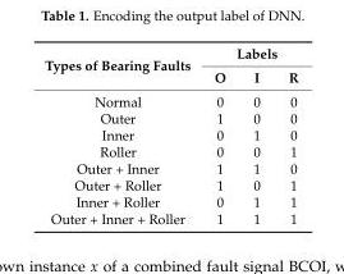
<table><thead><tr><td rowspan="2">Types of Bearing Faults</td><td colspan="3">Labels</td></tr><tr><td>O</td><td>I</td><td>R</td></tr></thead><tbody><tr><td>Normal</td><td>0</td><td>0</td><td>0</td></tr><tr><td>Outer</td><td>1</td><td>0</td><td>0</td></tr><tr><td>Inner</td><td>0</td><td>1</td><td>0</td></tr><tr><td>Roller</td><td>0</td><td>0</td><td>1</td></tr><tr><td>Outer + Inner</td><td>1</td><td>1</td><td>0</td></tr><tr><td>Outer + Roller</td><td>1</td><td>0</td><td>1</td></tr><tr><td>Inner + Roller</td><td>0</td><td>1</td><td>1</td></tr><tr><td>Outer + Inner + Roller</td><td>1</td><td>1</td><td>1</td></tr></tbody></table>